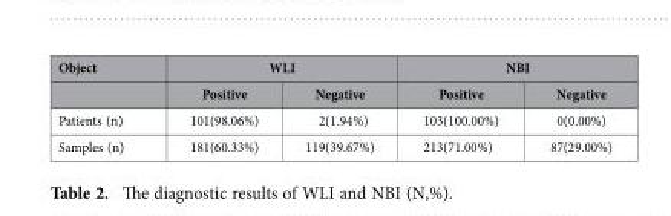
<table><thead><tr><td rowspan="2">Object</td><td colspan="2">WLI</td><td colspan="2">NBI</td></tr><tr><td>Positive</td><td>Negative</td><td>Positive</td><td>Negative</td></tr></thead><tbody><tr><td>Patients (n)</td><td>101(98.06%)</td><td>2(1.94%)</td><td>103(100.00%)</td><td>0(0.00%)</td></tr><tr><td>Samples (n)</td><td>181(60.33%)</td><td>119(39.67%)</td><td>213(71.00%)</td><td>87(29.00%)</td></tr></tbody></table>